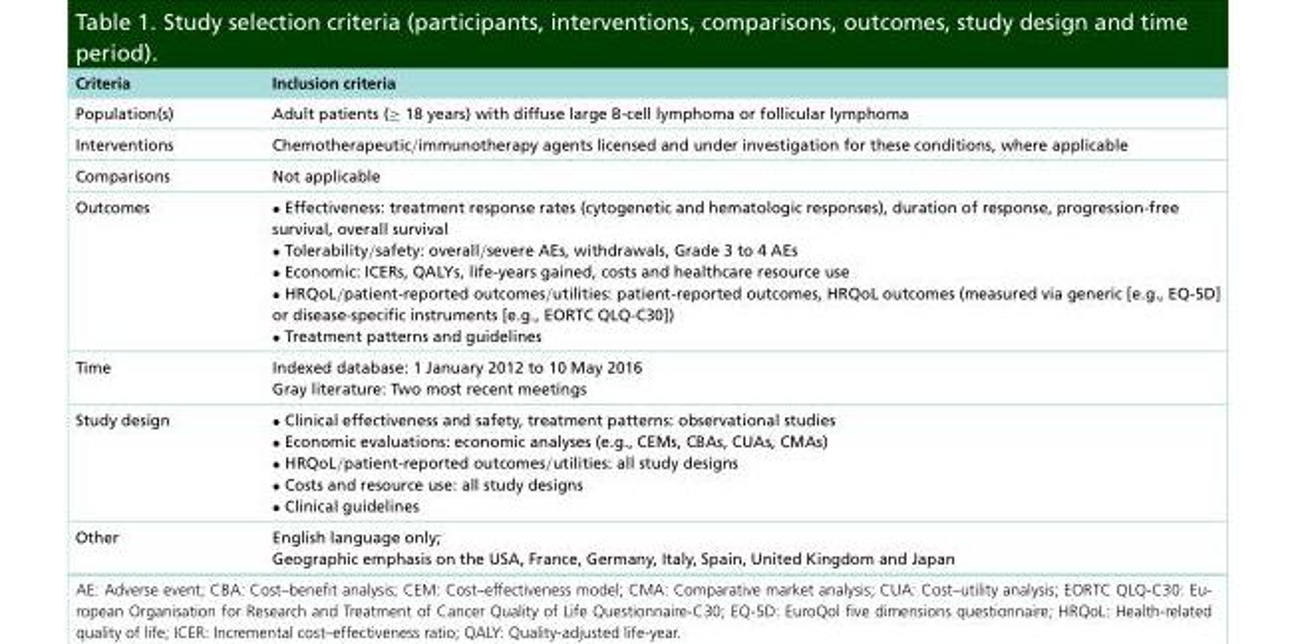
<table><thead><tr><td>Criteria</td><td>Inclusion criteria</td></tr></thead><tbody><tr><td>Population(s)</td><td>Adult patients (≥ 18 years) with diffuse large B-cell lymphoma or follicular lymphoma</td></tr><tr><td>Interventions</td><td>Chemotherapeutic/immunotherapy agents licensed and under investigation for these conditions, where applicable</td></tr><tr><td>Comparisons</td><td>Not applicable</td></tr><tr><td>Outcomes</td><td>• Effectiveness: treatment response rates (cytogenetic and hematologic responses), duration of response, progression-free survival, overall survival • Tolerability/safety: overall/severe AEs, withdrawals, Grade 3 to 4 AEs • Economic: ICERs, QALYs, life-years gained, costs and healthcare resource use • HRQoL/patient-reported outcomes/utilities: patient-reported outcomes, HRQoL outcomes (measured via generic [e.g., EQ-5D] or disease-specific instruments [e.g., EORTC QLQ-C30]) • Treatment patterns and guidelines</td></tr><tr><td>Time</td><td>Indexed database: 1 January 2012 to 10 May 2016 Gray literature: Two most recent meetings</td></tr><tr><td>Study design</td><td>• Clinical effectiveness and safety, treatment patterns: observational studies • Economic evaluations: economic analyses (e.g., CEMs, CBAs, CUAs, CMAs) • HRQoL/patient-reported outcomes/utilities: all study designs • Costs and resource use: all study designs • Clinical guidelines</td></tr><tr><td>Other</td><td>English language only; Geographic emphasis on the USA, France, Germany, Italy, Spain, United Kingdom and Japan</td></tr></tbody></table>